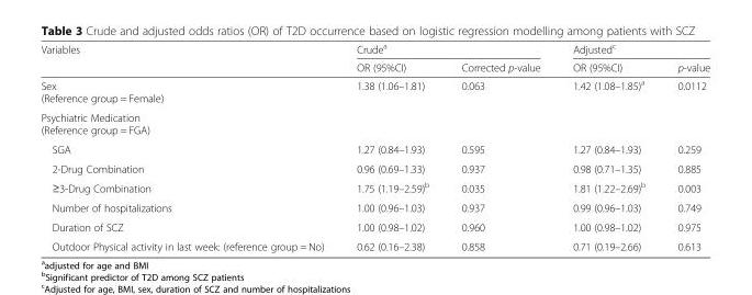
<table><thead><tr><td rowspan="2">Variables</td><td colspan="2">Crude<sup>a</sup></td><td colspan="2">Adjusted<sup>c</sup></td></tr><tr><td>OR (95%CI)</td><td>Corrected p-value</td><td>OR (95%CI)</td><td>p-value</td></tr></thead><tbody><tr><td>Sex (Reference group = Female)</td><td>1.38 (1.06–1.81)</td><td>0.063</td><td>1.42 (1.08–1.85)<sup>a</sup></td><td>0.0112</td></tr><tr><td colspan="5">Psychiatric Medication (Reference group = FGA)</td></tr><tr><td>SGA</td><td>1.27 (0.84–1.93)</td><td>0.595</td><td>1.27 (0.84–1.93)</td><td>0.259</td></tr><tr><td>2-Drug Combination</td><td>0.96 (0.69–1.33)</td><td>0.937</td><td>0.98 (0.71–1.35)</td><td>0.885</td></tr><tr><td>≥3-Drug Combination</td><td>1.75 (1.19–2.59)<sup>b</sup></td><td>0.035</td><td>1.81 (1.22–2.69)<sup>b</sup></td><td>0.003</td></tr><tr><td>Number of hospitalizations</td><td>1.00 (0.96–1.03)</td><td>0.937</td><td>0.99 (0.96–1.03)</td><td>0.749</td></tr><tr><td>Duration of SCZ</td><td>1.00 (0.98–1.02)</td><td>0.960</td><td>1.00 (0.98–1.02)</td><td>0.975</td></tr><tr><td>Outdoor Physical activity in last week: (reference group = No)</td><td>0.62 (0.16–2.38)</td><td>0.858</td><td>0.71 (0.19–2.66)</td><td>0.613</td></tr></tbody></table>